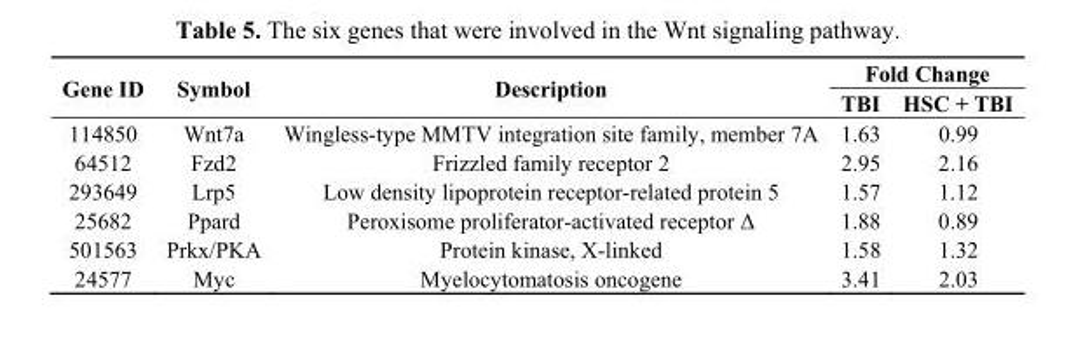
<table><thead><tr><td rowspan="2">Gene ID</td><td rowspan="2">Symbol</td><td rowspan="2">Description</td><td colspan="2">Fold Change</td></tr><tr><td>TBI</td><td>HSC + TBI</td></tr></thead><tbody><tr><td>114850</td><td>Wnt7a</td><td>Wingless-type MMTV integration site family, member 7A</td><td>1.63</td><td>0.99</td></tr><tr><td>64512</td><td>Fzd2</td><td>Frizzled family receptor 2</td><td>2.95</td><td>2.16</td></tr><tr><td>293649</td><td>Lrp5</td><td>Low density lipoprotein receptor-related protein 5</td><td>1.57</td><td>1.12</td></tr><tr><td>25682</td><td>Ppard</td><td>Peroxisome proliferator-activated receptor Δ</td><td>1.88</td><td>0.89</td></tr><tr><td>501563</td><td>Prkx/PKA</td><td>Protein kinase, X-linked</td><td>1.58</td><td>1.32</td></tr><tr><td>24577</td><td>Myc</td><td>Myelocytomatosis oncogene</td><td>3.41</td><td>2.03</td></tr></tbody></table>